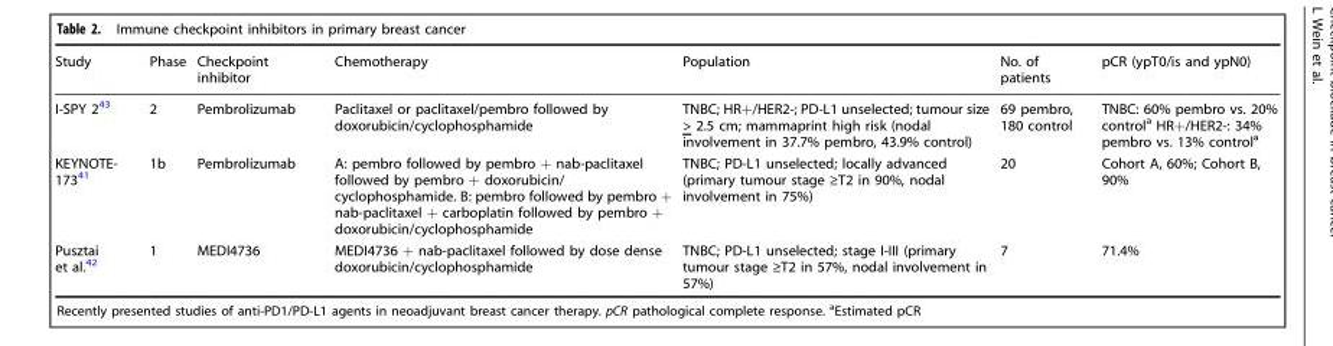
<table><thead><tr><td>Study</td><td>Phase</td><td>Checkpoint inhibitor</td><td>Chemotherapy</td><td>Population</td><td>No. of patients</td><td>pCR (ypT0/is and ypN0)</td></tr></thead><tbody><tr><td>I-SPY 2<sup>43</sup></td><td>2</td><td>Pembrolizumab</td><td>Paclitaxel or paclitaxel/pembro followed by doxorubicin/cyclophosphamide</td><td>TNBC; HR+/HER2-; PD-L1 unselected; tumour size &gt; 2.5 cm; mammaprint high risk (nodal involvement in 37.7% pembro, 43.9% control)</td><td>69 pembro, 180 control</td><td>TNBC: 60% pembro vs. 20% control<sup>a</sup> HR+/HER2-: 34% pembro vs. 13% control<sup>a</sup></td></tr><tr><td>KEYNOTE- 173<sup>41</sup></td><td>1b</td><td>Pembrolizumab</td><td>A: pembro followed by pembro + nab-paclitaxel followed by pembro + doxorubicin/ cyclophosphamide. B: pembro followed by pembro + nab-paclitaxel + carboplatin followed by pembro + doxorubicin/cyclophosphamide</td><td>TNBC; PD-L1 unselected; locally advanced (primary tumour stage ≥T2 in 90%, nodal involvement in 75%)</td><td>20</td><td>Cohort A, 60%; Cohort B, 90%</td></tr><tr><td>Pusztai et al.<sup>42</sup></td><td>1</td><td>MEDI4736</td><td>MEDI4736 + nab-paclitaxel followed by dose dense doxorubicin/cyclophosphamide</td><td>TNBC; PD-L1 unselected; stage I-III (primary tumour stage ≥T2 in 57%, nodal involvement in 57%)</td><td>7</td><td>71.4%</td></tr></tbody></table>